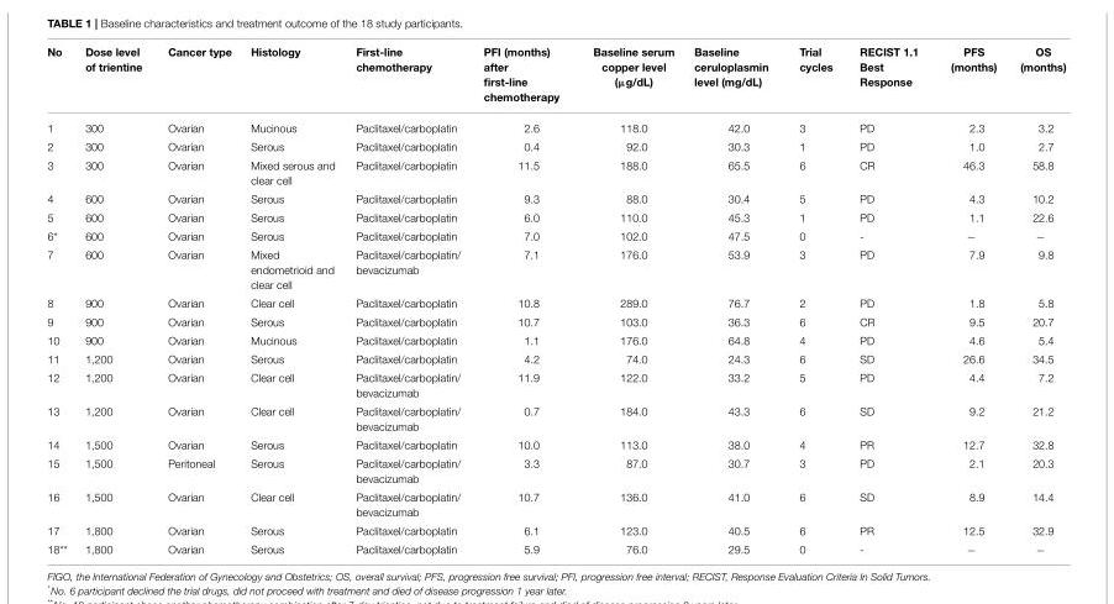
<table><thead><tr><td>No</td><td>Dose level of trientine</td><td>Cancer type</td><td>Histology</td><td>First-line chemotherapy</td><td>PFI (months) after first-line chemotherapy</td><td>Baseline serum copper level (µg/dL)</td><td>Baseline ceruloplasmin level (mg/dL)</td><td>Trial cycles</td><td>RECIST 1.1 Best Response</td><td>PFS (months)</td><td>OS (months)</td></tr></thead><tbody><tr><td>1</td><td>300</td><td>Ovarian</td><td>Mucinous</td><td>Paclitaxel/carboplatin</td><td>2.6</td><td>118.0</td><td>42.0</td><td>3</td><td>PD</td><td>2.3</td><td>3.2</td></tr><tr><td>2</td><td>300</td><td>Ovarian</td><td>Serous</td><td>Paclitaxel/carboplatin</td><td>0.4</td><td>92.0</td><td>30.3</td><td>1</td><td>PD</td><td>1.0</td><td>2.7</td></tr><tr><td>3</td><td>300</td><td>Ovarian</td><td>Mixed serous and clear cell</td><td>Paclitaxel/carboplatin</td><td>11.5</td><td>188.0</td><td>65.5</td><td>6</td><td>CR</td><td>46.3</td><td>58.8</td></tr><tr><td>4</td><td>600</td><td>Ovarian</td><td>Serous</td><td>Paclitaxel/carboplatin</td><td>9.3</td><td>88.0</td><td>30.4</td><td>5</td><td>PD</td><td>4.3</td><td>10.2</td></tr><tr><td>5</td><td>600</td><td>Ovarian</td><td>Serous</td><td>Paclitaxel/carboplatin</td><td>6.0</td><td>110.0</td><td>45.3</td><td>1</td><td>PD</td><td>1.1</td><td>22.6</td></tr><tr><td>6*</td><td>600</td><td>Ovarian</td><td>Serous</td><td>Paclitaxel/carboplatin</td><td>7.0</td><td>102.0</td><td>47.5</td><td>0</td><td>-</td><td>−</td><td>−</td></tr><tr><td>7</td><td>600</td><td>Ovarian</td><td>Mixed endometrioid and clear cell</td><td>Paclitaxel/carboplatin/ bevacizumab</td><td>7.1</td><td>176.0</td><td>53.9</td><td>3</td><td>PD</td><td>7.9</td><td>9.8</td></tr><tr><td>8</td><td>900</td><td>Ovarian</td><td>Clear cell</td><td>Paclitaxel/carboplatin</td><td>10.8</td><td>289.0</td><td>76.7</td><td>2</td><td>PD</td><td>1.8</td><td>5.8</td></tr><tr><td>9</td><td>900</td><td>Ovarian</td><td>Serous</td><td>Paclitaxel/carboplatin</td><td>10.7</td><td>103.0</td><td>36.3</td><td>6</td><td>CR</td><td>9.5</td><td>20.7</td></tr><tr><td>10</td><td>900</td><td>Ovarian</td><td>Mucinous</td><td>Paclitaxel/carboplatin</td><td>1.1</td><td>176.0</td><td>64.8</td><td>4</td><td>PD</td><td>4.6</td><td>5.4</td></tr><tr><td>11</td><td>1,200</td><td>Ovarian</td><td>Serous</td><td>Paclitaxel/carboplatin</td><td>4.2</td><td>74.0</td><td>24.3</td><td>6</td><td>SD</td><td>26.6</td><td>34.5</td></tr><tr><td>12</td><td>1,200</td><td>Ovarian</td><td>Clear cell</td><td>Paclitaxel/carboplatin/ bevacizumab</td><td>11.9</td><td>122.0</td><td>33.2</td><td>5</td><td>PD</td><td>4.4</td><td>7.2</td></tr><tr><td>13</td><td>1,200</td><td>Ovarian</td><td>Clear cell</td><td>Paclitaxel/carboplatin/ bevacizumab</td><td>0.7</td><td>184.0</td><td>43.3</td><td>6</td><td>SD</td><td>9.2</td><td>21.2</td></tr><tr><td>14</td><td>1,500</td><td>Ovarian</td><td>Serous</td><td>Paclitaxel/carboplatin</td><td>10.0</td><td>113.0</td><td>38.0</td><td>4</td><td>PR</td><td>12.7</td><td>32.8</td></tr><tr><td>15</td><td>1,500</td><td>Peritoneal</td><td>Serous</td><td>Paclitaxel/carboplatin/ bevacizumab</td><td>3.3</td><td>87.0</td><td>30.7</td><td>3</td><td>PD</td><td>2.1</td><td>20.3</td></tr><tr><td>16</td><td>1,500</td><td>Ovarian</td><td>Clear cell</td><td>Paclitaxel/carboplatin/ bevacizumab</td><td>10.7</td><td>136.0</td><td>41.0</td><td>6</td><td>SD</td><td>8.9</td><td>14.4</td></tr><tr><td>17</td><td>1,800</td><td>Ovarian</td><td>Serous</td><td>Paclitaxel/carboplatin</td><td>6.1</td><td>123.0</td><td>40.5</td><td>6</td><td>PR</td><td>12.5</td><td>32.9</td></tr><tr><td>18**</td><td>1,800</td><td>Ovarian</td><td>Serous</td><td>Paclitaxel/carboplatin</td><td>5.9</td><td>76.0</td><td>29.5</td><td>0</td><td>-</td><td>−</td><td>−</td></tr></tbody></table>